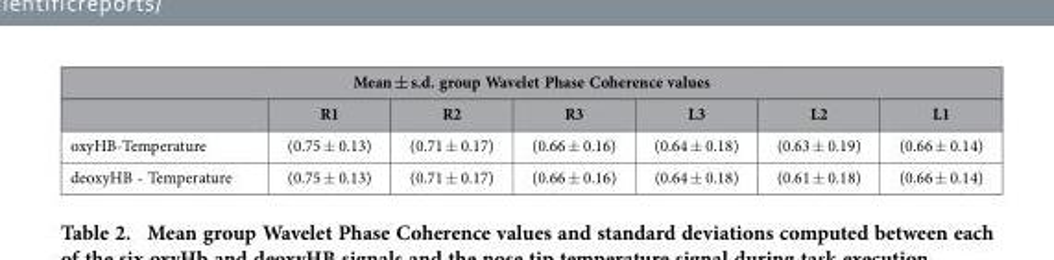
<table><thead><tr><td colspan="7">Mean ± s.d. group Wavelet Phase Coherence values</td></tr><tr><td></td><td>R1</td><td>R2</td><td>R3</td><td>L3</td><td>L2</td><td>L1</td></tr></thead><tbody><tr><td>oxyHB-Temperature</td><td>(0.75 ± 0.13)</td><td>(0.71 ± 0.17)</td><td>(0.66 ± 0.16)</td><td>(0.64 ± 0.18)</td><td>(0.63 ± 0.19)</td><td>(0.66 ± 0.14)</td></tr><tr><td>deoxyHB - Temperature</td><td>(0.75 ± 0.13)</td><td>(0.71 ± 0.17)</td><td>(0.66 ± 0.16)</td><td>(0.64 ± 0.18)</td><td>(0.61 ± 0.18)</td><td>(0.66 ± 0.14)</td></tr></tbody></table>